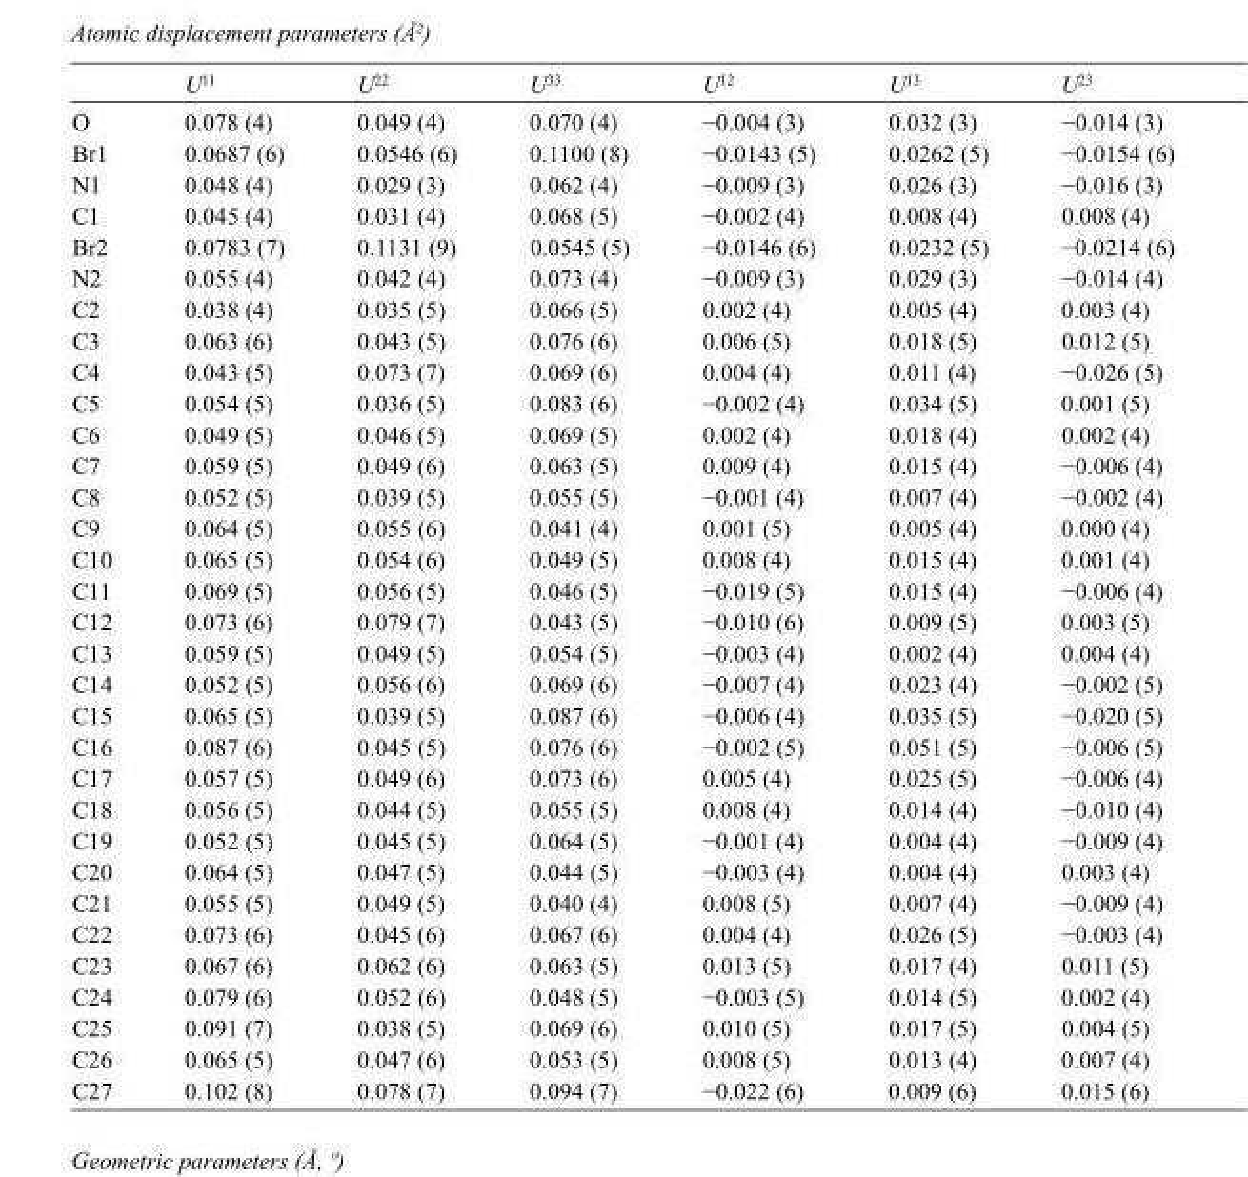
<table><thead><tr><td></td><td>U<sup>11</sup></td><td>U<sup>22</sup></td><td>U<sup>33</sup></td><td>U<sup>12</sup></td><td>U<sup>13</sup></td><td>U<sup>23</sup></td></tr></thead><tbody><tr><td>O</td><td>0.078 (4)</td><td>0.049 (4)</td><td>0.070 (4)</td><td>−0.004 (3)</td><td>0.032 (3)</td><td>−0.014 (3)</td></tr><tr><td>Br1</td><td>0.0687 (6)</td><td>0.0546 (6)</td><td>0.1100 (8)</td><td>−0.0143 (5)</td><td>0.0262 (5)</td><td>−0.0154 (6)</td></tr><tr><td>N1</td><td>0.048 (4)</td><td>0.029 (3)</td><td>0.062 (4)</td><td>−0.009 (3)</td><td>0.026 (3)</td><td>−0.016 (3)</td></tr><tr><td>C1</td><td>0.045 (4)</td><td>0.031 (4)</td><td>0.068 (5)</td><td>−0.002 (4)</td><td>0.008 (4)</td><td>0.008 (4)</td></tr><tr><td>Br2</td><td>0.0783 (7)</td><td>0.1131 (9)</td><td>0.0545 (5)</td><td>−0.0146 (6)</td><td>0.0232 (5)</td><td>−0.0214 (6)</td></tr><tr><td>N2</td><td>0.055 (4)</td><td>0.042 (4)</td><td>0.073 (4)</td><td>−0.009 (3)</td><td>0.029 (3)</td><td>−0.014 (4)</td></tr><tr><td>C2</td><td>0.038 (4)</td><td>0.035 (5)</td><td>0.066 (5)</td><td>0.002 (4)</td><td>0.005 (4)</td><td>0.003 (4)</td></tr><tr><td>C3</td><td>0.063 (6)</td><td>0.043 (5)</td><td>0.076 (6)</td><td>0.006 (5)</td><td>0.018 (5)</td><td>0.012 (5)</td></tr><tr><td>C4</td><td>0.043 (5)</td><td>0.073 (7)</td><td>0.069 (6)</td><td>0.004 (4)</td><td>0.011 (4)</td><td>−0.026 (5)</td></tr><tr><td>C5</td><td>0.054 (5)</td><td>0.036 (5)</td><td>0.083 (6)</td><td>−0.002 (4)</td><td>0.034 (5)</td><td>0.001 (5)</td></tr><tr><td>C6</td><td>0.049 (5)</td><td>0.046 (5)</td><td>0.069 (5)</td><td>0.002 (4)</td><td>0.018 (4)</td><td>0.002 (4)</td></tr><tr><td>C7</td><td>0.059 (5)</td><td>0.049 (6)</td><td>0.063 (5)</td><td>0.009 (4)</td><td>0.015 (4)</td><td>−0.006 (4)</td></tr><tr><td>C8</td><td>0.052 (5)</td><td>0.039 (5)</td><td>0.055 (5)</td><td>−0.001 (4)</td><td>0.007 (4)</td><td>−0.002 (4)</td></tr><tr><td>C9</td><td>0.064 (5)</td><td>0.055 (6)</td><td>0.041 (4)</td><td>0.001 (5)</td><td>0.005 (4)</td><td>0.000 (4)</td></tr><tr><td>C10</td><td>0.065 (5)</td><td>0.054 (6)</td><td>0.049 (5)</td><td>0.008 (4)</td><td>0.015 (4)</td><td>0.001 (4)</td></tr><tr><td>C11</td><td>0.069 (5)</td><td>0.056 (5)</td><td>0.046 (5)</td><td>−0.019 (5)</td><td>0.015 (4)</td><td>−0.006 (4)</td></tr><tr><td>C12</td><td>0.073 (6)</td><td>0.079 (7)</td><td>0.043 (5)</td><td>−0.010 (6)</td><td>0.009 (5)</td><td>0.003 (5)</td></tr><tr><td>C13</td><td>0.059 (5)</td><td>0.049 (5)</td><td>0.054 (5)</td><td>−0.003 (4)</td><td>0.002 (4)</td><td>0.004 (4)</td></tr><tr><td>C14</td><td>0.052 (5)</td><td>0.056 (6)</td><td>0.069 (6)</td><td>−0.007 (4)</td><td>0.023 (4)</td><td>−0.002 (5)</td></tr><tr><td>C15</td><td>0.065 (5)</td><td>0.039 (5)</td><td>0.087 (6)</td><td>−0.006 (4)</td><td>0.035 (5)</td><td>−0.020 (5)</td></tr><tr><td>C16</td><td>0.087 (6)</td><td>0.045 (5)</td><td>0.076 (6)</td><td>−0.002 (5)</td><td>0.051 (5)</td><td>−0.006 (5)</td></tr><tr><td>C17</td><td>0.057 (5)</td><td>0.049 (6)</td><td>0.073 (6)</td><td>0.005 (4)</td><td>0.025 (5)</td><td>−0.006 (4)</td></tr><tr><td>C18</td><td>0.056 (5)</td><td>0.044 (5)</td><td>0.055 (5)</td><td>0.008 (4)</td><td>0.014 (4)</td><td>−0.010 (4)</td></tr><tr><td>C19</td><td>0.052 (5)</td><td>0.045 (5)</td><td>0.064 (5)</td><td>−0.001 (4)</td><td>0.004 (4)</td><td>−0.009 (4)</td></tr><tr><td>C20</td><td>0.064 (5)</td><td>0.047 (5)</td><td>0.044 (5)</td><td>−0.003 (4)</td><td>0.004 (4)</td><td>0.003 (4)</td></tr><tr><td>C21</td><td>0.055 (5)</td><td>0.049 (5)</td><td>0.040 (4)</td><td>0.008 (5)</td><td>0.007 (4)</td><td>−0.009 (4)</td></tr><tr><td>C22</td><td>0.073 (6)</td><td>0.045 (6)</td><td>0.067 (6)</td><td>0.004 (4)</td><td>0.026 (5)</td><td>−0.003 (4)</td></tr><tr><td>C23</td><td>0.067 (6)</td><td>0.062 (6)</td><td>0.063 (5)</td><td>0.013 (5)</td><td>0.017 (4)</td><td>0.011 (5)</td></tr><tr><td>C24</td><td>0.079 (6)</td><td>0.052 (6)</td><td>0.048 (5)</td><td>−0.003 (5)</td><td>0.014 (5)</td><td>0.002 (4)</td></tr><tr><td>C25</td><td>0.091 (7)</td><td>0.038 (5)</td><td>0.069 (6)</td><td>0.010 (5)</td><td>0.017 (5)</td><td>0.004 (5)</td></tr><tr><td>C26</td><td>0.065 (5)</td><td>0.047 (6)</td><td>0.053 (5)</td><td>0.008 (5)</td><td>0.013 (4)</td><td>0.007 (4)</td></tr><tr><td>C27</td><td>0.102 (8)</td><td>0.078 (7)</td><td>0.094 (7)</td><td>−0.022 (6)</td><td>0.009 (6)</td><td>0.015 (6)</td></tr></tbody></table>